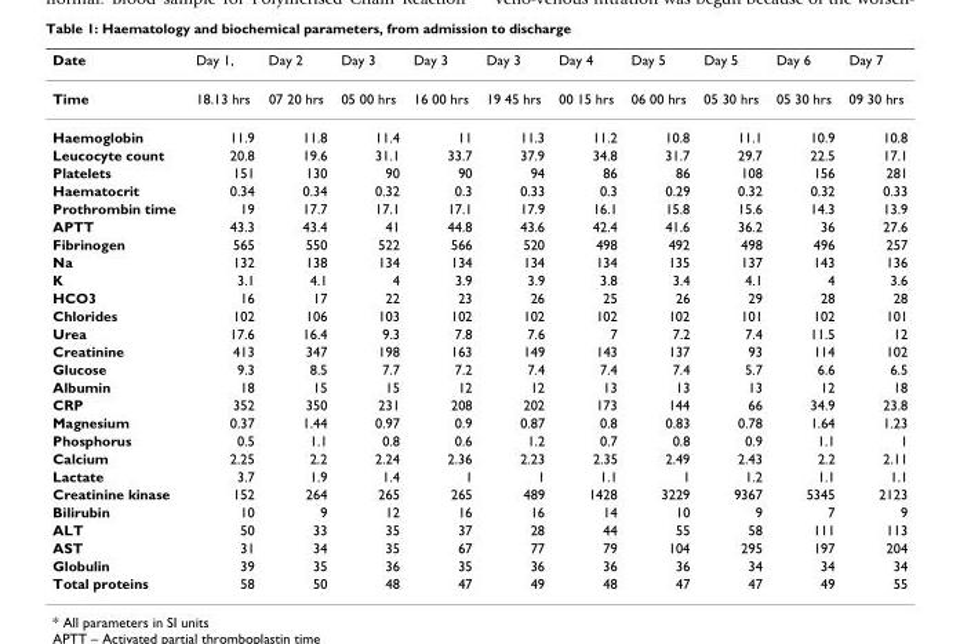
<table><thead><tr><td>Date</td><td>Day 1,</td><td>Day 2</td><td>Day 3</td><td>Day 3</td><td>Day 3</td><td>Day 4</td><td>Day 5</td><td>Day 5</td><td>Day 6</td><td>Day 7</td></tr></thead><tbody><tr><td>Time</td><td>18.13 hrs</td><td>07 20 hrs</td><td>05 00 hrs</td><td>16 00 hrs</td><td>19 45 hrs</td><td>00 15 hrs</td><td>06 00 hrs</td><td>05 30 hrs</td><td>05 30 hrs</td><td>09 30 hrs</td></tr><tr><td>Haemoglobin</td><td>11.9</td><td>11.8</td><td>11.4</td><td>11</td><td>11.3</td><td>11.2</td><td>10.8</td><td>11.1</td><td>10.9</td><td>10.8</td></tr><tr><td>Leucocyte count</td><td>20.8</td><td>19.6</td><td>31.1</td><td>33.7</td><td>37.9</td><td>34.8</td><td>31.7</td><td>29.7</td><td>22.5</td><td>17.1</td></tr><tr><td>Platelets</td><td>151</td><td>130</td><td>90</td><td>90</td><td>94</td><td>86</td><td>86</td><td>108</td><td>156</td><td>281</td></tr><tr><td>Haematocrit</td><td>0.34</td><td>0.34</td><td>0.32</td><td>0.3</td><td>0.33</td><td>0.3</td><td>0.29</td><td>0.32</td><td>0.32</td><td>0.33</td></tr><tr><td>Prothrombin time</td><td>19</td><td>17.7</td><td>17.1</td><td>17.1</td><td>17.9</td><td>16.1</td><td>15.8</td><td>15.6</td><td>14.3</td><td>13.9</td></tr><tr><td>APTT</td><td>43.3</td><td>43.4</td><td>41</td><td>44.8</td><td>43.6</td><td>42.4</td><td>41.6</td><td>36.2</td><td>36</td><td>27.6</td></tr><tr><td>Fibrinogen</td><td>565</td><td>550</td><td>522</td><td>566</td><td>520</td><td>498</td><td>492</td><td>498</td><td>496</td><td>257</td></tr><tr><td>Na</td><td>132</td><td>138</td><td>134</td><td>134</td><td>134</td><td>134</td><td>135</td><td>137</td><td>143</td><td>136</td></tr><tr><td>K</td><td>3.1</td><td>4.1</td><td>4</td><td>3.9</td><td>3.9</td><td>3.8</td><td>3.4</td><td>4.1</td><td>4</td><td>3.6</td></tr><tr><td>HCO3</td><td>16</td><td>17</td><td>22</td><td>23</td><td>26</td><td>25</td><td>26</td><td>29</td><td>28</td><td>28</td></tr><tr><td>Chlorides</td><td>102</td><td>106</td><td>103</td><td>102</td><td>102</td><td>102</td><td>102</td><td>101</td><td>102</td><td>101</td></tr><tr><td>Urea</td><td>17.6</td><td>16.4</td><td>9.3</td><td>7.8</td><td>7.6</td><td>7</td><td>7.2</td><td>7.4</td><td>11.5</td><td>12</td></tr><tr><td>Creatinine</td><td>413</td><td>347</td><td>198</td><td>163</td><td>149</td><td>143</td><td>137</td><td>93</td><td>114</td><td>102</td></tr><tr><td>Glucose</td><td>9.3</td><td>8.5</td><td>7.7</td><td>7.2</td><td>7.4</td><td>7.4</td><td>7.4</td><td>5.7</td><td>6.6</td><td>6.5</td></tr><tr><td>Albumin</td><td>18</td><td>15</td><td>15</td><td>12</td><td>12</td><td>13</td><td>13</td><td>13</td><td>12</td><td>18</td></tr><tr><td>CRP</td><td>352</td><td>350</td><td>231</td><td>208</td><td>202</td><td>173</td><td>144</td><td>66</td><td>34.9</td><td>23.8</td></tr><tr><td>Magnesium</td><td>0.37</td><td>1.44</td><td>0.97</td><td>0.9</td><td>0.87</td><td>0.8</td><td>0.83</td><td>0.78</td><td>1.64</td><td>1.23</td></tr><tr><td>Phosphorus</td><td>0.5</td><td>1.1</td><td>0.8</td><td>0.6</td><td>1.2</td><td>0.7</td><td>0.8</td><td>0.9</td><td>1.1</td><td>1</td></tr><tr><td>Calcium</td><td>2.25</td><td>2.2</td><td>2.24</td><td>2.36</td><td>2.23</td><td>2.35</td><td>2.49</td><td>2.43</td><td>2.2</td><td>2.11</td></tr><tr><td>Lactate</td><td>3.7</td><td>1.9</td><td>1.4</td><td>1</td><td>1</td><td>1.1</td><td>1</td><td>1.2</td><td>1.1</td><td>1.1</td></tr><tr><td>Creatinine kinase</td><td>152</td><td>264</td><td>265</td><td>265</td><td>489</td><td>1428</td><td>3229</td><td>9367</td><td>5345</td><td>2123</td></tr><tr><td>Bilirubin</td><td>10</td><td>9</td><td>12</td><td>16</td><td>16</td><td>14</td><td>10</td><td>9</td><td>7</td><td>9</td></tr><tr><td>ALT</td><td>50</td><td>33</td><td>35</td><td>37</td><td>28</td><td>44</td><td>55</td><td>58</td><td>111</td><td>113</td></tr><tr><td>AST</td><td>31</td><td>34</td><td>35</td><td>67</td><td>77</td><td>79</td><td>104</td><td>295</td><td>197</td><td>204</td></tr><tr><td>Globulin</td><td>39</td><td>35</td><td>36</td><td>35</td><td>36</td><td>36</td><td>36</td><td>34</td><td>34</td><td>34</td></tr><tr><td>Total proteins</td><td>58</td><td>50</td><td>48</td><td>47</td><td>49</td><td>48</td><td>47</td><td>47</td><td>49</td><td>55</td></tr></tbody></table>